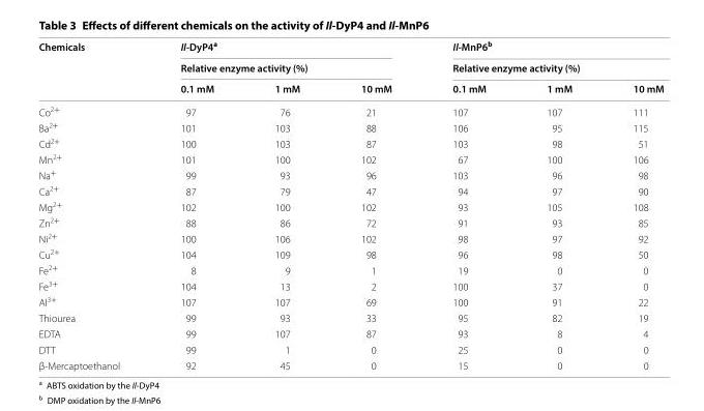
<table><thead><tr><td rowspan="3">Chemicals</td><td rowspan="2" colspan="3">Il‑DyP4<sup>a</sup> Relative enzyme activity (%)</td><td rowspan="2" colspan="3">Il‑MnP6<sup>b</sup> Relative enzyme activity (%)</td></tr><tr></tr><tr><td>0.1 mM</td><td>1 mM</td><td>10 mM</td><td>0.1 mM</td><td>1 mM</td><td>10 mM</td></tr></thead><tbody><tr><td>Co<sup>2+</sup></td><td>97</td><td>76</td><td>21</td><td>107</td><td>107</td><td>111</td></tr><tr><td>Ba<sup>2+</sup></td><td>101</td><td>103</td><td>88</td><td>106</td><td>95</td><td>115</td></tr><tr><td>Cd<sup>2+</sup></td><td>100</td><td>103</td><td>87</td><td>103</td><td>98</td><td>51</td></tr><tr><td>Mn<sup>2+</sup></td><td>101</td><td>100</td><td>102</td><td>67</td><td>100</td><td>106</td></tr><tr><td>Na<sup>+</sup></td><td>99</td><td>93</td><td>96</td><td>103</td><td>96</td><td>98</td></tr><tr><td>Ca<sup>2+</sup></td><td>87</td><td>79</td><td>47</td><td>94</td><td>97</td><td>90</td></tr><tr><td>Mg<sup>2+</sup></td><td>102</td><td>100</td><td>102</td><td>93</td><td>105</td><td>108</td></tr><tr><td>Zn<sup>2+</sup></td><td>88</td><td>86</td><td>72</td><td>91</td><td>93</td><td>85</td></tr><tr><td>Ni<sup>2+</sup></td><td>100</td><td>106</td><td>102</td><td>98</td><td>97</td><td>92</td></tr><tr><td>Cu<sup>2+</sup></td><td>104</td><td>109</td><td>98</td><td>96</td><td>98</td><td>50</td></tr><tr><td>Fe<sup>2+</sup></td><td>8</td><td>9</td><td>1</td><td>19</td><td>0</td><td>0</td></tr><tr><td>Fe<sup>3+</sup></td><td>104</td><td>13</td><td>2</td><td>100</td><td>37</td><td>0</td></tr><tr><td>Al<sup>3+</sup></td><td>107</td><td>107</td><td>69</td><td>100</td><td>91</td><td>22</td></tr><tr><td>Thiourea</td><td>99</td><td>93</td><td>33</td><td>95</td><td>82</td><td>19</td></tr><tr><td>EDTA</td><td>99</td><td>107</td><td>87</td><td>93</td><td>8</td><td>4</td></tr><tr><td>DTT</td><td>99</td><td>1</td><td>0</td><td>25</td><td>0</td><td>0</td></tr><tr><td>β-Mercaptoethanol</td><td>92</td><td>45</td><td>0</td><td>15</td><td>0</td><td>0</td></tr></tbody></table>